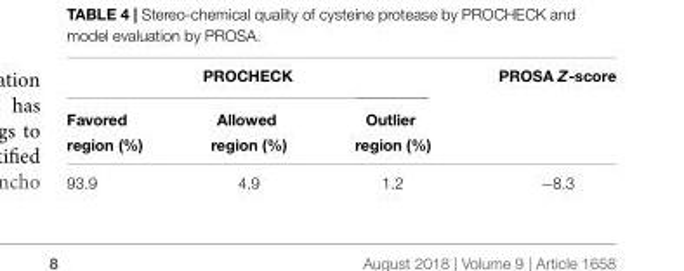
<table><thead><tr><td colspan="3">PROCHECK</td><td rowspan="3">PROSA Z-score</td></tr><tr><td rowspan="2">Favored region (%)</td><td rowspan="2">Allowed region (%)</td><td rowspan="2">Outlier region (%)</td></tr><tr></tr></thead><tbody><tr><td>93.9</td><td>4.9</td><td>1.2</td><td>−8.3</td></tr></tbody></table>